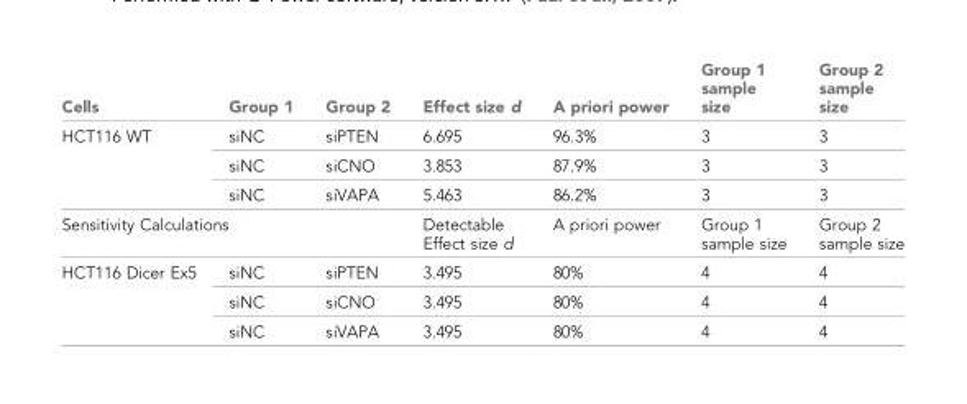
<table><thead><tr><td>Cells</td><td>Group 1</td><td>Group 2</td><td>Effect size d</td><td>A priori power</td><td>Group 1 sample size</td><td>Group 2 sample size</td></tr></thead><tbody><tr><td rowspan="3">HCT116 WT</td><td>siNC</td><td>siPTEN</td><td>6.695</td><td>96.3%</td><td>3</td><td>3</td></tr><tr><td>siNC</td><td>siCNO</td><td>3.853</td><td>87.9%</td><td>3</td><td>3</td></tr><tr><td>siNC</td><td>siVAPA</td><td>5.463</td><td>86.2%</td><td>3</td><td>3</td></tr><tr><td colspan="3">Sensitivity Calculations</td><td>Detectable Effect size d</td><td>A priori power</td><td>Group 1 sample size</td><td>Group 2 sample size</td></tr><tr><td rowspan="3">HCT116 Dicer Ex5</td><td>siNC</td><td>siPTEN</td><td>3.495</td><td>80%</td><td>4</td><td>4</td></tr><tr><td>siNC</td><td>siCNO</td><td>3.495</td><td>80%</td><td>4</td><td>4</td></tr><tr><td>siNC</td><td>siVAPA</td><td>3.495</td><td>80%</td><td>4</td><td>4</td></tr></tbody></table>